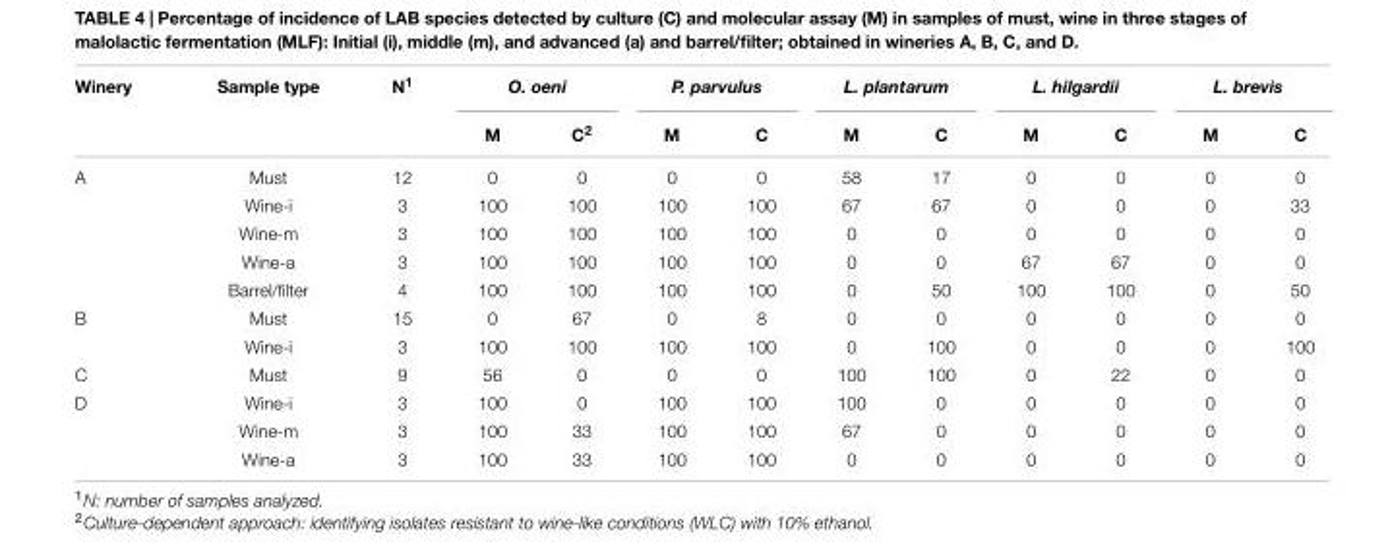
<table><thead><tr><td rowspan="2">Winery</td><td rowspan="2">Sample type</td><td rowspan="2">N<sup>1</sup></td><td colspan="2">O. oeni</td><td colspan="2">P. parvulus</td><td colspan="2">L. plantarum</td><td colspan="2">L. hilgardii</td><td colspan="2">L. brevis</td></tr><tr><td>M</td><td>C<sup>2</sup></td><td>M</td><td>C</td><td>M</td><td>C</td><td>M</td><td>C</td><td>M</td><td>C</td></tr></thead><tbody><tr><td rowspan="5">A</td><td>Must</td><td>12</td><td>0</td><td>0</td><td>0</td><td>0</td><td>58</td><td>17</td><td>0</td><td>0</td><td>0</td><td>0</td></tr><tr><td>Wine-i</td><td>3</td><td>100</td><td>100</td><td>100</td><td>100</td><td>67</td><td>67</td><td>0</td><td>0</td><td>0</td><td>33</td></tr><tr><td>Wine-m</td><td>3</td><td>100</td><td>100</td><td>100</td><td>100</td><td>0</td><td>0</td><td>0</td><td>0</td><td>0</td><td>0</td></tr><tr><td>Wine-a</td><td>3</td><td>100</td><td>100</td><td>100</td><td>100</td><td>0</td><td>0</td><td>67</td><td>67</td><td>0</td><td>0</td></tr><tr><td>Barrel/filter</td><td>4</td><td>100</td><td>100</td><td>100</td><td>100</td><td>0</td><td>50</td><td>100</td><td>100</td><td>0</td><td>50</td></tr><tr><td rowspan="2">B</td><td>Must</td><td>15</td><td>0</td><td>67</td><td>0</td><td>8</td><td>0</td><td>0</td><td>0</td><td>0</td><td>0</td><td>0</td></tr><tr><td>Wine-i</td><td>3</td><td>100</td><td>100</td><td>100</td><td>100</td><td>0</td><td>100</td><td>0</td><td>0</td><td>0</td><td>100</td></tr><tr><td>C</td><td>Must</td><td>9</td><td>56</td><td>0</td><td>0</td><td>0</td><td>100</td><td>100</td><td>0</td><td>22</td><td>0</td><td>0</td></tr><tr><td rowspan="3">D</td><td>Wine-i</td><td>3</td><td>100</td><td>0</td><td>100</td><td>100</td><td>100</td><td>0</td><td>0</td><td>0</td><td>0</td><td>0</td></tr><tr><td>Wine-m</td><td>3</td><td>100</td><td>33</td><td>100</td><td>100</td><td>67</td><td>0</td><td>0</td><td>0</td><td>0</td><td>0</td></tr><tr><td>Wine-a</td><td>3</td><td>100</td><td>33</td><td>100</td><td>100</td><td>0</td><td>0</td><td>0</td><td>0</td><td>0</td><td>0</td></tr></tbody></table>